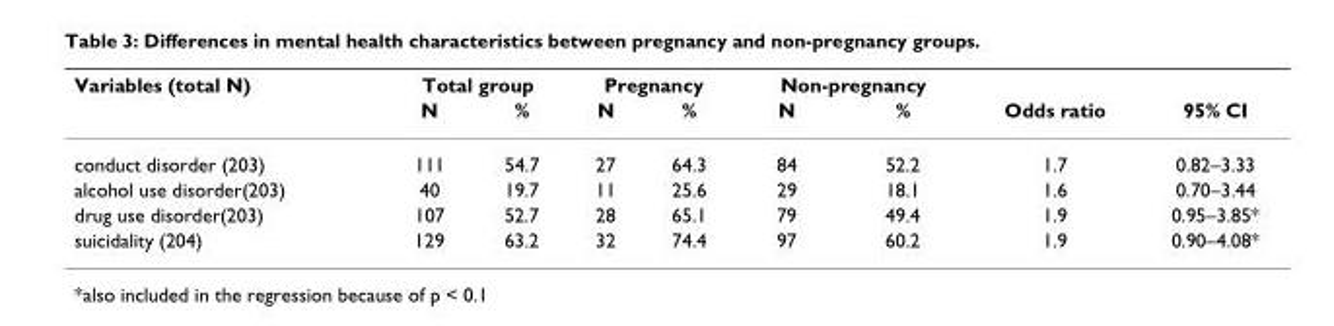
<table><thead><tr><td rowspan="2">Variables (total N)</td><td colspan="2">Total group</td><td colspan="2">Pregnancy</td><td colspan="2">Non-pregnancy</td><td rowspan="2">Odds ratio</td><td rowspan="2">95% CI</td></tr><tr><td>N</td><td>%</td><td>N</td><td>%</td><td>N</td><td>%</td></tr></thead><tbody><tr><td>conduct disorder (203)</td><td>111</td><td>54.7</td><td>27</td><td>64.3</td><td>84</td><td>52.2</td><td>1.7</td><td>0.82–3.33</td></tr><tr><td>alcohol use disorder(203)</td><td>40</td><td>19.7</td><td>11</td><td>25.6</td><td>29</td><td>18.1</td><td>1.6</td><td>0.70–3.44</td></tr><tr><td>drug use disorder(203)</td><td>107</td><td>52.7</td><td>28</td><td>65.1</td><td>79</td><td>49.4</td><td>1.9</td><td>0.95–3.85*</td></tr><tr><td>suicidality (204)</td><td>129</td><td>63.2</td><td>32</td><td>74.4</td><td>97</td><td>60.2</td><td>1.9</td><td>0.90–4.08*</td></tr></tbody></table>